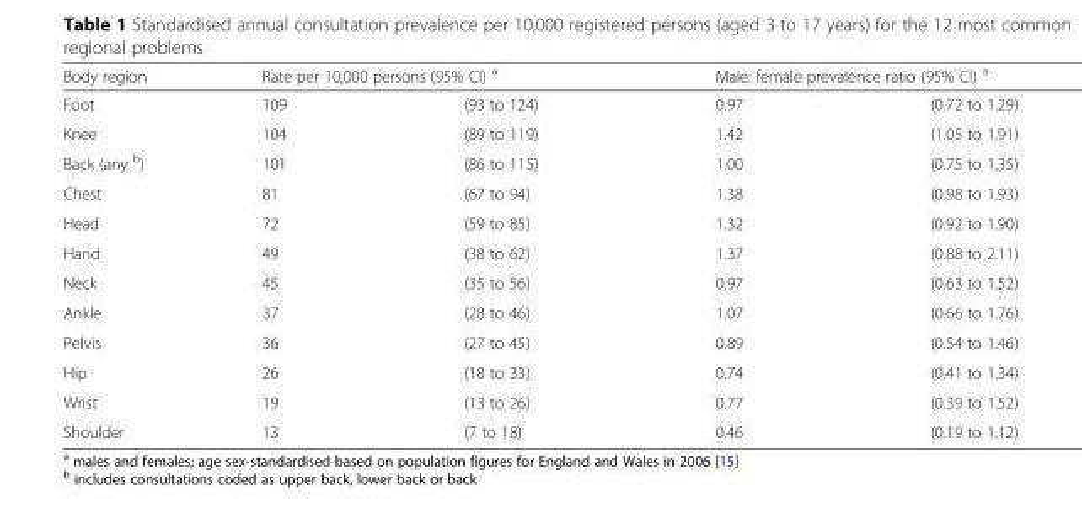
<table><thead><tr><td rowspan="2">Body region Foot</td><td colspan="2">Rate per 10,000 persons (95% CI) <sup>a</sup></td><td colspan="2">Male: female prevalence ratio (95% CI) <sup>a</sup></td></tr><tr><td>109</td><td>(93 to 124)</td><td>0.97</td><td>(0.72 to 1.29)</td></tr></thead><tbody><tr><td>Knee</td><td>104</td><td>(89 to 119)</td><td>1.42</td><td>(1.05 to 1.91)</td></tr><tr><td>Back (any <sup>b</sup>)</td><td>101</td><td>(86 to 115)</td><td>1.00</td><td>(0.75 to 1.35)</td></tr><tr><td>Chest</td><td>81</td><td>(67 to 94)</td><td>1.38</td><td>(0.98 to 1.93)</td></tr><tr><td>Head</td><td>72</td><td>(59 to 85)</td><td>1.32</td><td>(0.92 to 1.90)</td></tr><tr><td>Hand</td><td>49</td><td>(38 to 62)</td><td>1.37</td><td>(0.88 to 2.11)</td></tr><tr><td>Neck</td><td>45</td><td>(35 to 56)</td><td>0.97</td><td>(0.63 to 1.52)</td></tr><tr><td>Ankle</td><td>37</td><td>(28 to 46)</td><td>1.07</td><td>(0.66 to 1.76)</td></tr><tr><td>Pelvis</td><td>36</td><td>(27 to 45)</td><td>0.89</td><td>(0.54 to 1.46)</td></tr><tr><td>Hip</td><td>26</td><td>(18 to 33)</td><td>0.74</td><td>(0.41 to 1.34)</td></tr><tr><td>Wrist</td><td>19</td><td>(13 to 26)</td><td>0.77</td><td>(0.39 to 1.52)</td></tr><tr><td>Shoulder</td><td>13</td><td>(7 to 18)</td><td>0.46</td><td>(0.19 to 1.12)</td></tr></tbody></table>